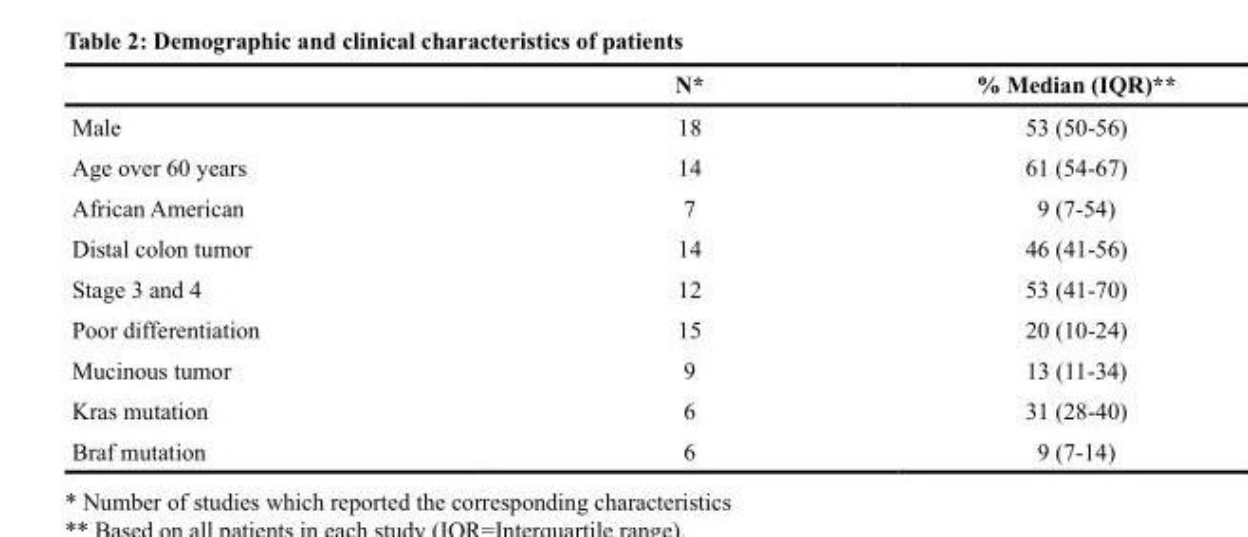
<table><thead><tr><td></td><td>N*</td><td>% Median (IQR)**</td></tr></thead><tbody><tr><td>Male</td><td>18</td><td>53 (50-56)</td></tr><tr><td>Age over 60 years</td><td>14</td><td>61 (54-67)</td></tr><tr><td>African American</td><td>7</td><td>9 (7-54)</td></tr><tr><td>Distal colon tumor</td><td>14</td><td>46 (41-56)</td></tr><tr><td>Stage 3 and 4</td><td>12</td><td>53 (41-70)</td></tr><tr><td>Poor differentiation</td><td>15</td><td>20 (10-24)</td></tr><tr><td>Mucinous tumor</td><td>9</td><td>13 (11-34)</td></tr><tr><td>Kras mutation</td><td>6</td><td>31 (28-40)</td></tr><tr><td>Braf mutation</td><td>6</td><td>9 (7-14)</td></tr></tbody></table>